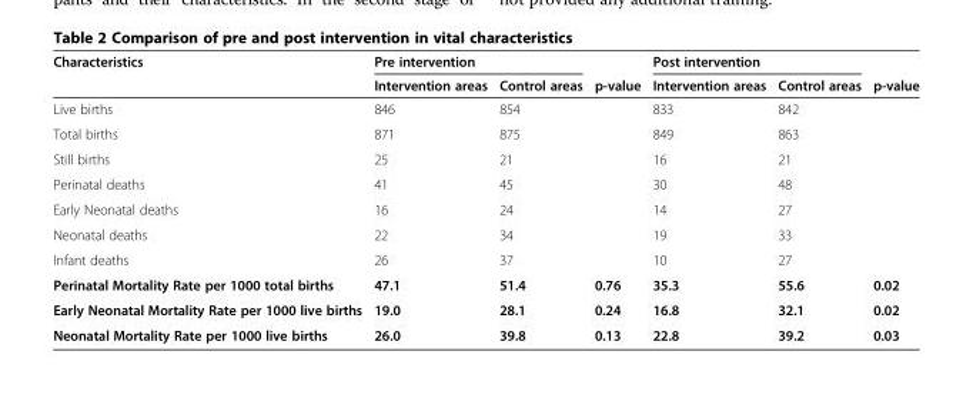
<table><thead><tr><td rowspan="2">Characteristics</td><td colspan="2">Pre intervention</td><td rowspan="2">p-value</td><td colspan="2">Post intervention</td><td rowspan="2">p-value</td></tr><tr><td>Intervention areas</td><td>Control areas</td><td>Intervention areas</td><td>Control areas</td></tr></thead><tbody><tr><td>Live births</td><td>846</td><td>854</td><td></td><td>833</td><td>842</td><td></td></tr><tr><td>Total births</td><td>871</td><td>875</td><td></td><td>849</td><td>863</td><td></td></tr><tr><td>Still births</td><td>25</td><td>21</td><td></td><td>16</td><td>21</td><td></td></tr><tr><td>Perinatal deaths</td><td>41</td><td>45</td><td></td><td>30</td><td>48</td><td></td></tr><tr><td>Early Neonatal deaths</td><td>16</td><td>24</td><td></td><td>14</td><td>27</td><td></td></tr><tr><td>Neonatal deaths</td><td>22</td><td>34</td><td></td><td>19</td><td>33</td><td></td></tr><tr><td>Infant deaths</td><td>26</td><td>37</td><td></td><td>10</td><td>27</td><td></td></tr><tr><td>Perinatal Mortality Rate per 1000 total births</td><td>47.1</td><td>51.4</td><td>0.76</td><td>35.3</td><td>55.6</td><td>0.02</td></tr><tr><td>Early Neonatal Mortality Rate per 1000 live births</td><td>19.0</td><td>28.1</td><td>0.24</td><td>16.8</td><td>32.1</td><td>0.02</td></tr><tr><td>Neonatal Mortality Rate per 1000 live births</td><td>26.0</td><td>39.8</td><td>0.13</td><td>22.8</td><td>39.2</td><td>0.03</td></tr></tbody></table>